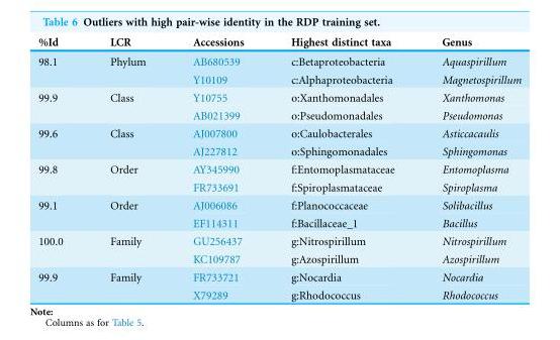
<table><thead><tr><td>%Id</td><td>LCR</td><td>Accessions</td><td>Highest distinct taxa</td><td>Genus</td></tr></thead><tbody><tr><td rowspan="2">98.1</td><td rowspan="2">Phylum</td><td>AB680539</td><td>c:Betaproteobacteria</td><td>Aquaspirillum</td></tr><tr><td>Y10109</td><td>c:Alphaproteobacteria</td><td>Magnetospirillum</td></tr><tr><td rowspan="2">99.9</td><td rowspan="2">Class</td><td>Y10755</td><td>o:Xanthomonadales</td><td>Xanthomonas</td></tr><tr><td>AB021399</td><td>o:Pseudomonadales</td><td>Pseudomonas</td></tr><tr><td rowspan="2">99.6</td><td rowspan="2">Class</td><td>AJ007800</td><td>o:Caulobacterales</td><td>Asticcacaulis</td></tr><tr><td>AJ227812</td><td>o:Sphingomonadales</td><td>Sphingomonas</td></tr><tr><td rowspan="2">99.8</td><td rowspan="2">Order</td><td>AY345990</td><td>f:Entomoplasmataceae</td><td>Entomoplasma</td></tr><tr><td>FR733691</td><td>f:Spiroplasmataceae</td><td>Spiroplasma</td></tr><tr><td rowspan="2">99.1</td><td rowspan="2">Order</td><td>AJ006086</td><td>f:Planococcaceae</td><td>Solibacillus</td></tr><tr><td>EF114311</td><td>f:Bacillaceae_1</td><td>Bacillus</td></tr><tr><td rowspan="2">100.0</td><td rowspan="2">Family</td><td>GU256437</td><td>g:Nitrospirillum</td><td>Nitrospirillum</td></tr><tr><td>KC109787</td><td>g:Azospirillum</td><td>Azospirillum</td></tr><tr><td rowspan="2">99.9</td><td rowspan="2">Family</td><td>FR733721</td><td>g:Nocardia</td><td>Nocardia</td></tr><tr><td>X79289</td><td>g:Rhodococcus</td><td>Rhodococcus</td></tr></tbody></table>